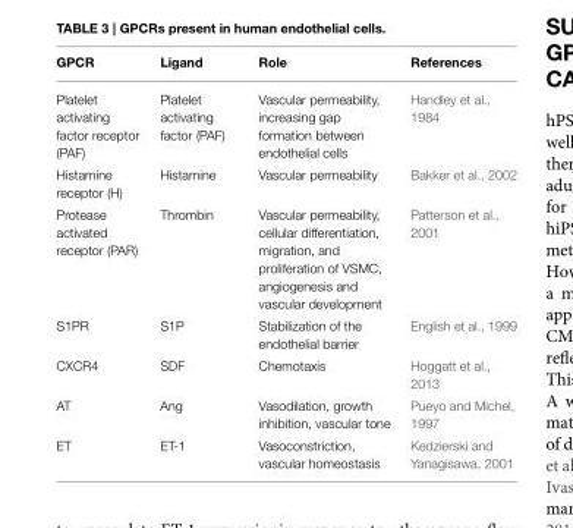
<table><thead><tr><td>GPCR</td><td>Ligand</td><td>Role</td><td>References</td></tr></thead><tbody><tr><td>Platelet activating factor receptor (PAF)</td><td>Platelet activating factor (PAF)</td><td>Vascular permeability, increasing gap formation between endothelial cells</td><td>Handley et al., 1984</td></tr><tr><td>Histamine receptor (H)</td><td>Histamine</td><td>Vascular permeability</td><td>Bakker et al., 2002</td></tr><tr><td>Protease activated receptor (PAR)</td><td>Thrombin</td><td>Vascular permeability, cellular differentiation, migration, and proliferation of VSMC, angiogenesis and vascular development</td><td>Patterson et al., 2001</td></tr><tr><td>S1PR</td><td>S1P</td><td>Stabilization of the endothelial barrier</td><td>English et al., 1999</td></tr><tr><td>CXCR4</td><td>SDF</td><td>Chemotaxis</td><td>Hoggatt et al., 2013</td></tr><tr><td>AT</td><td>Ang</td><td>Vasodilation, growth inhibition, vascular tone</td><td>Pueyo and Michel, 1997</td></tr><tr><td>ET</td><td>ET-1</td><td>Vasoconstriction, vascular homeostasis</td><td>Kedzierski and Yanagisawa, 2001</td></tr></tbody></table>